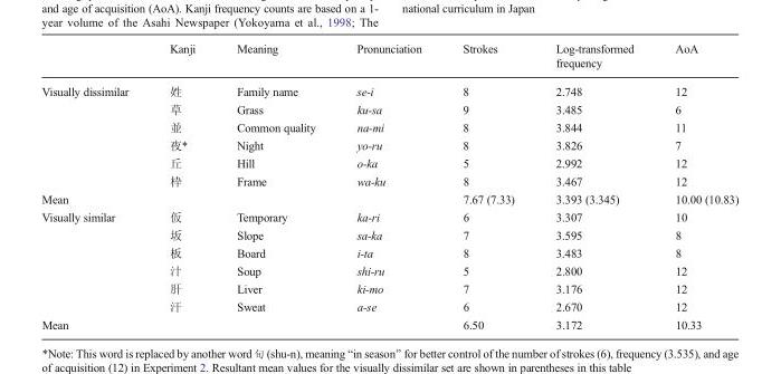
<table><thead><tr><td></td><td>Kanji</td><td>Meaning</td><td>Pronunciation</td><td>Strokes</td><td>Log-transformed frequency</td><td>AoA</td></tr></thead><tbody><tr><td rowspan="6">Visually dissimilar</td><td>姓</td><td>Family name</td><td>se-i</td><td>8</td><td>2.748</td><td>12</td></tr><tr><td>草</td><td>Grass</td><td>ku-sa</td><td>9</td><td>3.485</td><td>6</td></tr><tr><td>並</td><td>Common quality</td><td>na-mi</td><td>8</td><td>3.844</td><td>11</td></tr><tr><td>夜*</td><td>Night</td><td>yo-ru</td><td>8</td><td>3.826</td><td>7</td></tr><tr><td>丘</td><td>Hill</td><td>o-ka</td><td>5</td><td>2.992</td><td>12</td></tr><tr><td>枠</td><td>Frame</td><td>wa-ku</td><td>8</td><td>3.467</td><td>12</td></tr><tr><td>Mean</td><td></td><td></td><td></td><td>7.67 (7.33)</td><td>3.393 (3.345)</td><td>10.00 (10.83)</td></tr><tr><td rowspan="6">Visually similar</td><td>仮</td><td>Temporary</td><td>ka-ri</td><td>6</td><td>3.307</td><td>10</td></tr><tr><td>坂</td><td>Slope</td><td>sa-ka</td><td>7</td><td>3.595</td><td>8</td></tr><tr><td>板</td><td>Board</td><td>i-ta</td><td>8</td><td>3.483</td><td>8</td></tr><tr><td>汁</td><td>Soup</td><td>shi-ru</td><td>5</td><td>2.800</td><td>12</td></tr><tr><td>肝</td><td>Liver</td><td>ki-mo</td><td>7</td><td>3.176</td><td>12</td></tr><tr><td>汗</td><td>Sweat</td><td>a-se</td><td>6</td><td>2.670</td><td>12</td></tr><tr><td>Mean</td><td></td><td></td><td></td><td>6.50</td><td>3.172</td><td>10.33</td></tr></tbody></table>